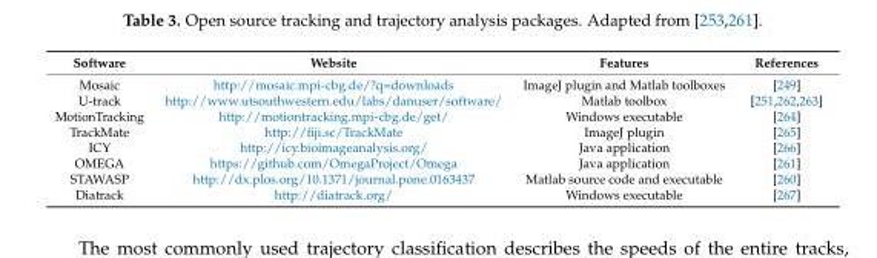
<table><thead><tr><td>Software</td><td>Website</td><td>Features</td><td>References</td></tr></thead><tbody><tr><td>Mosaic</td><td>http://mosaic.mpi-cbg.de/?q=downloads</td><td>ImageJ plugin and Matlab toolboxes</td><td>[249]</td></tr><tr><td>U-track</td><td>http://www.utsouthwestern.edu/labs/danuser/software/</td><td>Matlab toolbox</td><td>[251,262,263]</td></tr><tr><td>MotionTracking</td><td>http://motiontracking.mpi-cbg.de/get/</td><td>Windows executable</td><td>[264]</td></tr><tr><td>TrackMate</td><td>http://fiji.sc/TrackMate</td><td>ImageJ plugin</td><td>[265]</td></tr><tr><td>ICY</td><td>http://icy.bioimageanalysis.org/</td><td>Java application</td><td>[266]</td></tr><tr><td>OMEGA</td><td>https://github.com/OmegaProject/Omega</td><td>Java application</td><td>[261]</td></tr><tr><td>STAWASP</td><td>http://dx.plos.org/10.1371/journal.pone.0163437</td><td>Matlab source code and executable</td><td>[260]</td></tr><tr><td>Diatrack</td><td>http://diatrack.org/</td><td>Windows executable</td><td>[267]</td></tr></tbody></table>